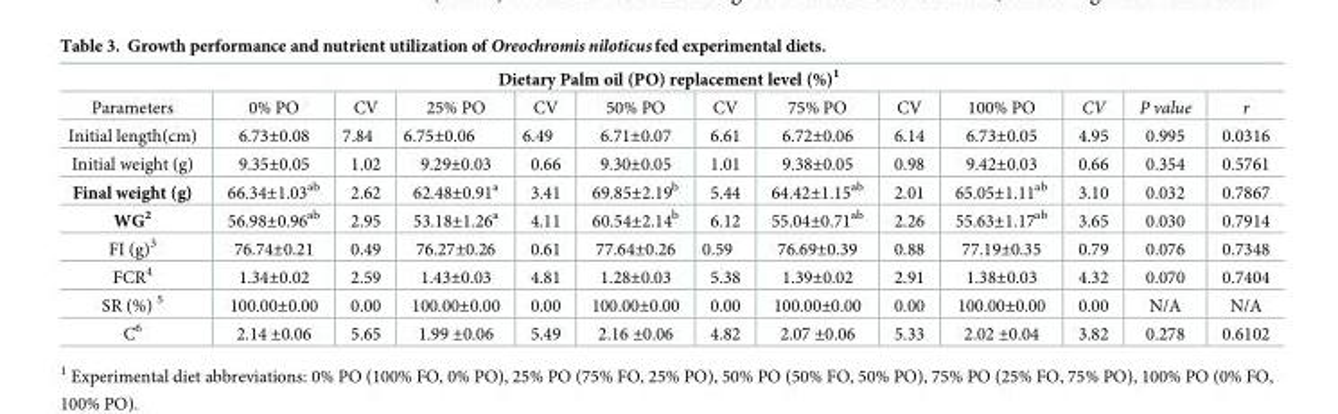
<table><thead><tr><td colspan="13">Dietary Palm oil (PO) replacement level (%)<sup>1</sup></td></tr><tr><td>Parameters</td><td>0% PO</td><td>CV</td><td>25% PO</td><td>CV</td><td>50% PO</td><td>CV</td><td>75% PO</td><td>CV</td><td>100% PO</td><td>CV</td><td>P value</td><td>r</td></tr></thead><tbody><tr><td>Initial length(cm)</td><td>6.73±0.08</td><td>7.84</td><td>6.75±0.06</td><td>6.49</td><td>6.71±0.07</td><td>6.61</td><td>6.72±0.06</td><td>6.14</td><td>6.73±0.05</td><td>4.95</td><td>0.995</td><td>0.0316</td></tr><tr><td>Initial weight (g)</td><td>9.35±0.05</td><td>1.02</td><td>9.29±0.03</td><td>0.66</td><td>9.30±0.05</td><td>1.01</td><td>9.38±0.05</td><td>0.98</td><td>9.42±0.03</td><td>0.66</td><td>0.354</td><td>0.5761</td></tr><tr><td>Final weight (g)</td><td>66.34±1.03<sup>ab</sup></td><td>2.62</td><td>62.48±0.91<sup>a</sup></td><td>3.41</td><td>69.85±2.19<sup>b</sup></td><td>5.44</td><td>64.42±1.15<sup>ab</sup></td><td>2.01</td><td>65.05±1.11<sup>ab</sup></td><td>3.10</td><td>0.032</td><td>0.7867</td></tr><tr><td>WG<sup>2</sup></td><td>56.98±0.96<sup>ab</sup></td><td>2.95</td><td>53.18±1.26<sup>a</sup></td><td>4.11</td><td>60.54±2.14<sup>b</sup></td><td>6.12</td><td>55.04±0.71<sup>ab</sup></td><td>2.26</td><td>55.63±1.17<sup>ab</sup></td><td>3.65</td><td>0.030</td><td>0.7914</td></tr><tr><td>FI (g)<sup>3</sup></td><td>76.74±0.21</td><td>0.49</td><td>76.27±0.26</td><td>0.61</td><td>77.64±0.26</td><td>0.59</td><td>76.69±0.39</td><td>0.88</td><td>77.19±0.35</td><td>0.79</td><td>0.076</td><td>0.7348</td></tr><tr><td>FCR<sup>4</sup></td><td>1.34±0.02</td><td>2.59</td><td>1.43±0.03</td><td>4.81</td><td>1.28±0.03</td><td>5.38</td><td>1.39±0.02</td><td>2.91</td><td>1.38±0.03</td><td>4.32</td><td>0.070</td><td>0.7404</td></tr><tr><td>SR (%) <sup>5</sup></td><td>100.00±0.00</td><td>0.00</td><td>100.00±0.00</td><td>0.00</td><td>100.00±0.00</td><td>0.00</td><td>100.00±0.00</td><td>0.00</td><td>100.00±0.00</td><td>0.00</td><td>N/A</td><td>N/A</td></tr><tr><td>C<sup>6</sup></td><td>2.14 ±0.06</td><td>5.65</td><td>1.99 ±0.06</td><td>5.49</td><td>2.16 ±0.06</td><td>4.82</td><td>2.07 ±0.06</td><td>5.33</td><td>2.02 ±0.04</td><td>3.82</td><td>0.278</td><td>0.6102</td></tr></tbody></table>